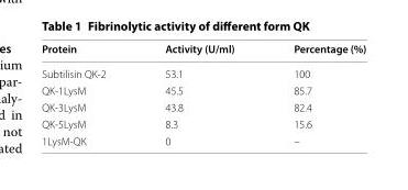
<table><thead><tr><td>Protein</td><td>Activity (U/ml)</td><td>Percentage (%)</td></tr></thead><tbody><tr><td>Subtilisin QK-2</td><td>53.1</td><td>100</td></tr><tr><td>QK-1LysM</td><td>45.5</td><td>85.7</td></tr><tr><td>QK-3LysM</td><td>43.8</td><td>82.4</td></tr><tr><td>QK-5LysM</td><td>8.3</td><td>15.6</td></tr><tr><td>1LysM-QK</td><td>0</td><td>–</td></tr></tbody></table>